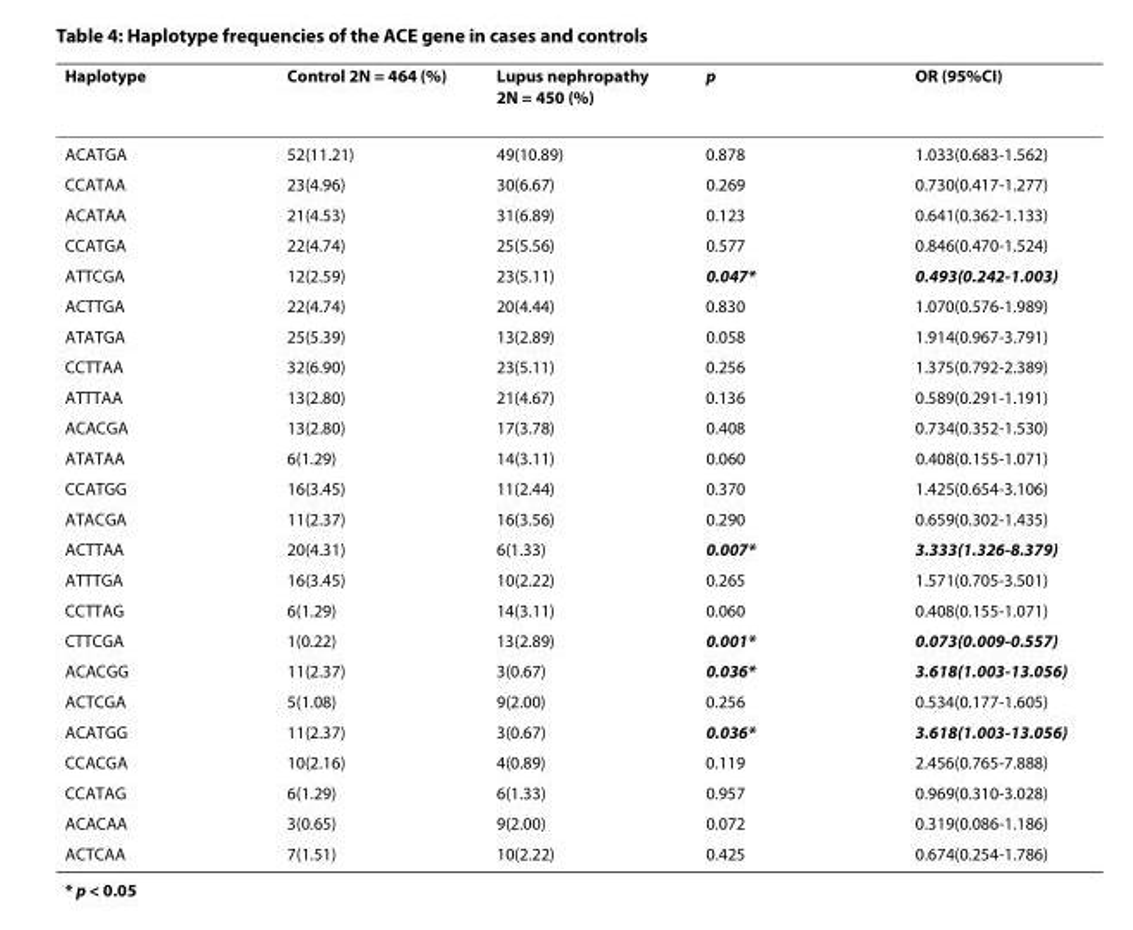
<table><thead><tr><td>Haplotype</td><td>Control 2N = 464 (%)</td><td>Lupus nephropathy 2N = 450 (%)</td><td>p</td><td>OR (95%CI)</td></tr></thead><tbody><tr><td>ACATGA</td><td>52(11.21)</td><td>49(10.89)</td><td>0.878</td><td>1.033(0.683-1.562)</td></tr><tr><td>CCATAA</td><td>23(4.96)</td><td>30(6.67)</td><td>0.269</td><td>0.730(0.417-1.277)</td></tr><tr><td>ACATAA</td><td>21(4.53)</td><td>31(6.89)</td><td>0.123</td><td>0.641(0.362-1.133)</td></tr><tr><td>CCATGA</td><td>22(4.74)</td><td>25(5.56)</td><td>0.577</td><td>0.846(0.470-1.524)</td></tr><tr><td>ATTCGA</td><td>12(2.59)</td><td>23(5.11)</td><td>0.047*</td><td>0.493(0.242-1.003)</td></tr><tr><td>ACTTGA</td><td>22(4.74)</td><td>20(4.44)</td><td>0.830</td><td>1.070(0.576-1.989)</td></tr><tr><td>ATATGA</td><td>25(5.39)</td><td>13(2.89)</td><td>0.058</td><td>1.914(0.967-3.791)</td></tr><tr><td>CCTTAA</td><td>32(6.90)</td><td>23(5.11)</td><td>0.256</td><td>1.375(0.792-2.389)</td></tr><tr><td>ATTTAA</td><td>13(2.80)</td><td>21(4.67)</td><td>0.136</td><td>0.589(0.291-1.191)</td></tr><tr><td>ACACGA</td><td>13(2.80)</td><td>17(3.78)</td><td>0.408</td><td>0.734(0.352-1.530)</td></tr><tr><td>ATATAA</td><td>6(1.29)</td><td>14(3.11)</td><td>0.060</td><td>0.408(0.155-1.071)</td></tr><tr><td>CCATGG</td><td>16(3.45)</td><td>11(2.44)</td><td>0.370</td><td>1.425(0.654-3.106)</td></tr><tr><td>ATACGA</td><td>11(2.37)</td><td>16(3.56)</td><td>0.290</td><td>0.659(0.302-1.435)</td></tr><tr><td>ACTTAA</td><td>20(4.31)</td><td>6(1.33)</td><td>0.007*</td><td>3.333(1.326-8.379)</td></tr><tr><td>ATTTGA</td><td>16(3.45)</td><td>10(2.22)</td><td>0.265</td><td>1.571(0.705-3.501)</td></tr><tr><td>CCTTAG</td><td>6(1.29)</td><td>14(3.11)</td><td>0.060</td><td>0.408(0.155-1.071)</td></tr><tr><td>CTTCGA</td><td>1(0.22)</td><td>13(2.89)</td><td>0.001*</td><td>0.073(0.009-0.557)</td></tr><tr><td>ACACGG</td><td>11(2.37)</td><td>3(0.67)</td><td>0.036*</td><td>3.618(1.003-13.056)</td></tr><tr><td>ACTCGA</td><td>5(1.08)</td><td>9(2.00)</td><td>0.256</td><td>0.534(0.177-1.605)</td></tr><tr><td>ACATGG</td><td>11(2.37)</td><td>3(0.67)</td><td>0.036*</td><td>3.618(1.003-13.056)</td></tr><tr><td>CCACGA</td><td>10(2.16)</td><td>4(0.89)</td><td>0.119</td><td>2.456(0.765-7.888)</td></tr><tr><td>CCATAG</td><td>6(1.29)</td><td>6(1.33)</td><td>0.957</td><td>0.969(0.310-3.028)</td></tr><tr><td>ACACAA</td><td>3(0.65)</td><td>9(2.00)</td><td>0.072</td><td>0.319(0.086-1.186)</td></tr><tr><td>ACTCAA</td><td>7(1.51)</td><td>10(2.22)</td><td>0.425</td><td>0.674(0.254-1.786)</td></tr></tbody></table>